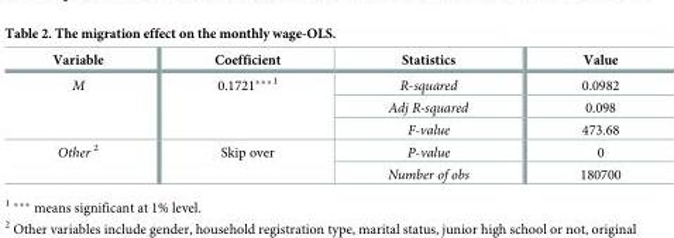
<table><thead><tr><td>Variable</td><td>Coefficient</td><td>Statistics</td><td>Value</td></tr></thead><tbody><tr><td rowspan="3">M</td><td rowspan="3">0.1721***<sup>1</sup></td><td>R-squared</td><td>0.0982</td></tr><tr><td>Adj R-squared</td><td>0.098</td></tr><tr><td>F-value</td><td>473.68</td></tr><tr><td rowspan="2">Other <sup>2</sup></td><td rowspan="2">Skip over</td><td>P-value</td><td>0</td></tr><tr><td>Number of obs</td><td>180700</td></tr></tbody></table>